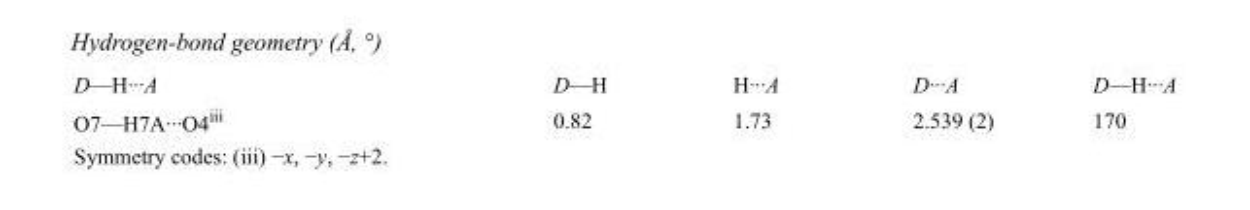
<table><tbody><tr><td>D—H···A</td><td>D—H</td><td>H···A</td><td>D···A</td><td>D—H···A</td></tr><tr><td>O7—H7A···O4<sup>iii</sup></td><td>0.82</td><td>1.73</td><td>2.539 (2)</td><td>170</td></tr></tbody></table>